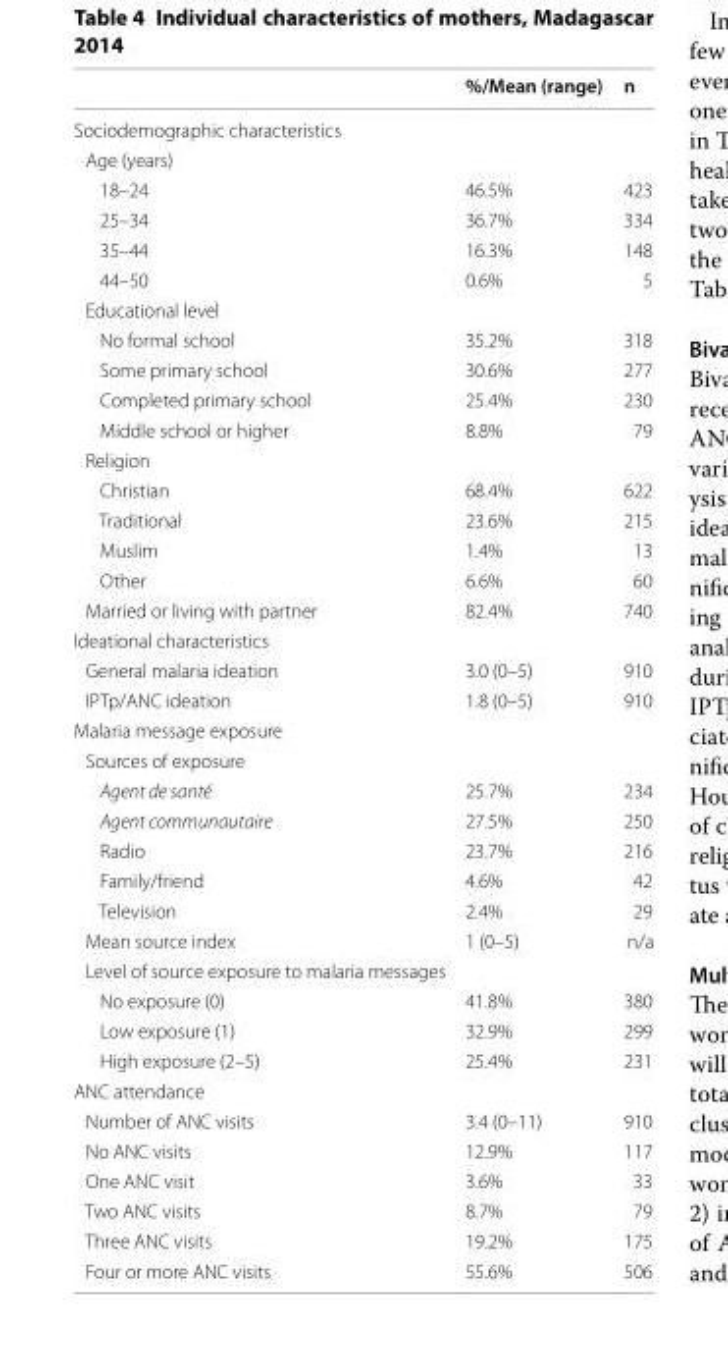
<table><thead><tr><td></td><td>%/Mean (range)</td><td>n</td></tr></thead><tbody><tr><td colspan="3">Sociodemographic characteristics</td></tr><tr><td colspan="3">Age (years)</td></tr><tr><td>18–24</td><td>46.5%</td><td>423</td></tr><tr><td>25–34</td><td>36.7%</td><td>334</td></tr><tr><td>35–44</td><td>16.3%</td><td>148</td></tr><tr><td>44–50</td><td>0.6%</td><td>5</td></tr><tr><td colspan="3">Educational level</td></tr><tr><td>No formal school</td><td>35.2%</td><td>318</td></tr><tr><td>Some primary school</td><td>30.6%</td><td>277</td></tr><tr><td>Completed primary school</td><td>25.4%</td><td>230</td></tr><tr><td>Middle school or higher</td><td>8.8%</td><td>79</td></tr><tr><td colspan="3">Religion</td></tr><tr><td>Christian</td><td>68.4%</td><td>622</td></tr><tr><td>Traditional</td><td>23.6%</td><td>215</td></tr><tr><td>Muslim</td><td>1.4%</td><td>13</td></tr><tr><td>Other</td><td>6.6%</td><td>60</td></tr><tr><td>Married or living with partner</td><td>82.4%</td><td>740</td></tr><tr><td colspan="3">Ideational characteristics</td></tr><tr><td>General malaria ideation</td><td>3.0 (0–5)</td><td>910</td></tr><tr><td>IPTp/ANC ideation</td><td>1.8 (0–5)</td><td>910</td></tr><tr><td colspan="3">Malaria message exposure</td></tr><tr><td colspan="3">Sources of exposure</td></tr><tr><td>Agent de santé</td><td>25.7%</td><td>234</td></tr><tr><td>Agent communautaire</td><td>27.5%</td><td>250</td></tr><tr><td>Radio</td><td>23.7%</td><td>216</td></tr><tr><td>Family/friend</td><td>4.6%</td><td>42</td></tr><tr><td>Television</td><td>2.4%</td><td>29</td></tr><tr><td>Mean source index</td><td>1 (0–5)</td><td>n/a</td></tr><tr><td colspan="3">Level of source exposure to malaria messages</td></tr><tr><td>No exposure (0)</td><td>41.8%</td><td>380</td></tr><tr><td>Low exposure (1)</td><td>32.9%</td><td>299</td></tr><tr><td>High exposure (2–5)</td><td>25.4%</td><td>231</td></tr><tr><td colspan="3">ANC attendance</td></tr><tr><td>Number of ANC visits</td><td>3.4 (0–11)</td><td>910</td></tr><tr><td>No ANC visits</td><td>12.9%</td><td>117</td></tr><tr><td>One ANC visit</td><td>3.6%</td><td>33</td></tr><tr><td>Two ANC visits</td><td>8.7%</td><td>79</td></tr><tr><td>Three ANC visits</td><td>19.2%</td><td>175</td></tr><tr><td>Four or more ANC visits</td><td>55.6%</td><td>506</td></tr></tbody></table>